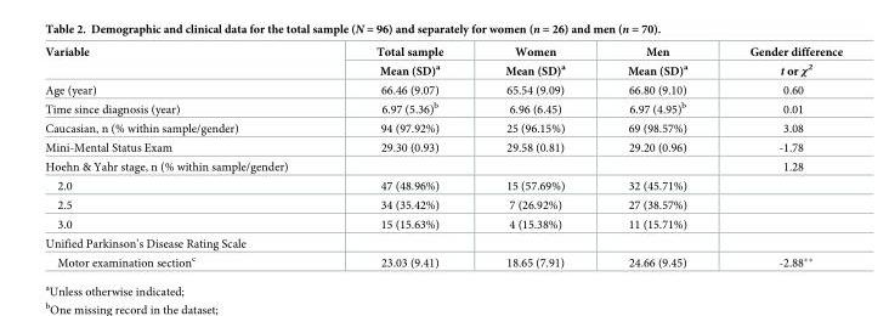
<table><thead><tr><td rowspan="2">Variable</td><td rowspan="2">Total sample Mean (SD)<sup>a</sup></td><td rowspan="2">Women Mean (SD)<sup>a</sup></td><td rowspan="2">Men Mean (SD)<sup>a</sup></td><td rowspan="2">Gender difference t or χ<sup>2</sup></td></tr><tr></tr></thead><tbody><tr><td>Age (year)</td><td>66.46 (9.07)</td><td>65.54 (9.09)</td><td>66.80 (9.10)</td><td>0.60</td></tr><tr><td>Time since diagnosis (year)</td><td>6.97 (5.36)<sup>b</sup></td><td>6.96 (6.45)</td><td>6.97 (4.95)<sup>b</sup></td><td>0.01</td></tr><tr><td>Caucasian, n (% within sample/gender)</td><td>94 (97.92%)</td><td>25 (96.15%)</td><td>69 (98.57%)</td><td>3.08</td></tr><tr><td>Mini-Mental Status Exam</td><td>29.30 (0.93)</td><td>29.58 (0.81)</td><td>29.20 (0.96)</td><td>-1.78</td></tr><tr><td>Hoehn &amp; Yahr stage, n (% within sample/gender)</td><td></td><td></td><td></td><td>1.28</td></tr><tr><td>2.0</td><td>47 (48.96%)</td><td>15 (57.69%)</td><td>32 (45.71%)</td><td></td></tr><tr><td>2.5</td><td>34 (35.42%)</td><td>7 (26.92%)</td><td>27 (38.57%)</td><td></td></tr><tr><td>3.0</td><td>15 (15.63%)</td><td>4 (15.38%)</td><td>11 (15.71%)</td><td></td></tr><tr><td colspan="5">Unified Parkinson’s Disease Rating Scale</td></tr><tr><td>Motor examination section<sup>c</sup></td><td>23.03 (9.41)</td><td>18.65 (7.91)</td><td>24.66 (9.45)</td><td>-2.88**</td></tr></tbody></table>